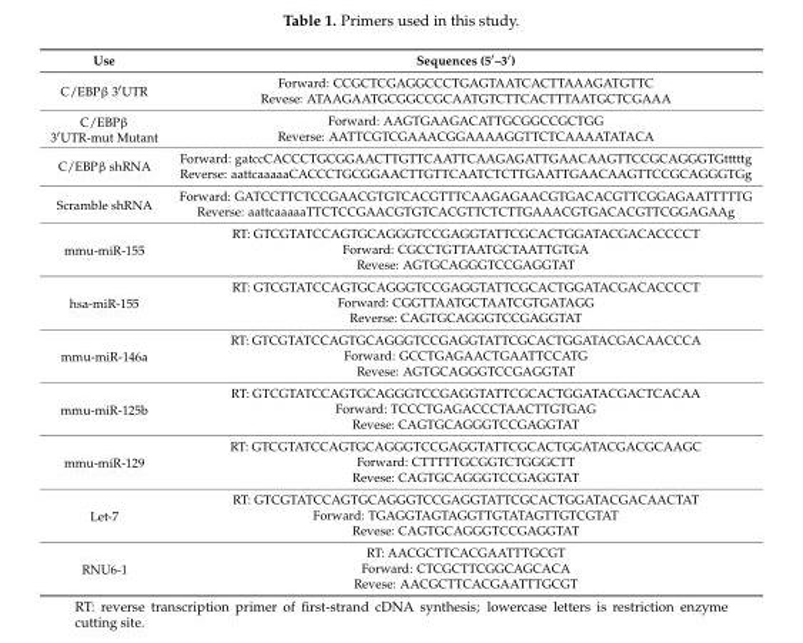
<table><thead><tr><td>Use</td><td>Sequences (5′–3′)</td></tr></thead><tbody><tr><td rowspan="2">C/EBPβ 3′UTR</td><td>Forward: CCGCTCGAGGCCCTGAGTAATCACTTAAAGATGTTC</td></tr><tr><td>Revese: ATAAGAATGCGGCCGCAATGTCTTCACTTTAATGCTCGAAA</td></tr><tr><td rowspan="2">C/EBPβ 3′UTR-mut Mutant</td><td>Forward: AAGTGAAGACATTGCGGCCGCTGG</td></tr><tr><td>Reverse: AATTCGTCGAAACGGAAAAGGTTCTCAAAATATACA</td></tr><tr><td rowspan="2">C/EBPβ shRNA</td><td>Forward: gatccCACCCTGCGGAACTTGTTCAATTCAAGAGATTGAACAAGTTCCGCAGGGTGtttttg</td></tr><tr><td>Reverse: aattcaaaaaCACCCTGCGGAACTTGTTCAATCTCTTGAATTGAACAAGTTCCGCAGGGTGg</td></tr><tr><td rowspan="2">Scramble shRNA</td><td>Forward: GATCCTTCTCCGAACGTGTCACGTTTCAAGAGAACGTGACACGTTCGGAGAATTTTTG</td></tr><tr><td>Reverse: aattcaaaaaTTCTCCGAACGTGTCACGTTCTCTTGAAACGTGACACGTTCGGAGAAg</td></tr><tr><td rowspan="3">mmu-miR-155</td><td>RT: GTCGTATCCAGTGCAGGGTCCGAGGTATTCGCACTGGATACGACACCCCT</td></tr><tr><td>Forward: CGCCTGTTAATGCTAATTGTGA</td></tr><tr><td>Revese: AGTGCAGGGTCCGAGGTAT</td></tr><tr><td rowspan="3">hsa-miR-155</td><td>RT: GTCGTATCCAGTGCAGGGTCCGAGGTATTCGCACTGGATACGACACCCCT</td></tr><tr><td>Forward: CGGTTAATGCTAATCGTGATAGG</td></tr><tr><td>Reverse: CAGTGCAGGGTCCGAGGTAT</td></tr><tr><td rowspan="3">mmu-miR-146a</td><td>RT: GTCGTATCCAGTGCAGGGTCCGAGGTATTCGCACTGGATACGACAACCCA</td></tr><tr><td>Forward: GCCTGAGAACTGAATTCCATG</td></tr><tr><td>Revese: AGTGCAGGGTCCGAGGTAT</td></tr><tr><td rowspan="3">mmu-miR-125b</td><td>RT: GTCGTATCCAGTGCAGGGTCCGAGGTATTCGCACTGGATACGACTCACAA</td></tr><tr><td>Forward: TCCCTGAGACCCTAACTTGTGAG</td></tr><tr><td>Revese: CAGTGCAGGGTCCGAGGTAT</td></tr><tr><td rowspan="3">mmu-miR-129</td><td>RT: GTCGTATCCAGTGCAGGGTCCGAGGTATTCGCACTGGATACGACGCAAGC</td></tr><tr><td>Forward: CTTTTTGCGGTCTGGGCTT</td></tr><tr><td>Revese: CAGTGCAGGGTCCGAGGTAT</td></tr><tr><td rowspan="3">Let-7</td><td>RT: GTCGTATCCAGTGCAGGGTCCGAGGTATTCGCACTGGATACGACAACTAT</td></tr><tr><td>Forward: TGAGGTAGTAGGTTGTATAGTTGTCGTAT</td></tr><tr><td>Revese: CAGTGCAGGGTCCGAGGTAT</td></tr><tr><td rowspan="3">RNU6-1</td><td>RT: AACGCTTCACGAATTTGCGT</td></tr><tr><td>Forward: CTCGCTTCGGCAGCACA</td></tr><tr><td>Revese: AACGCTTCACGAATTTGCGT</td></tr></tbody></table>